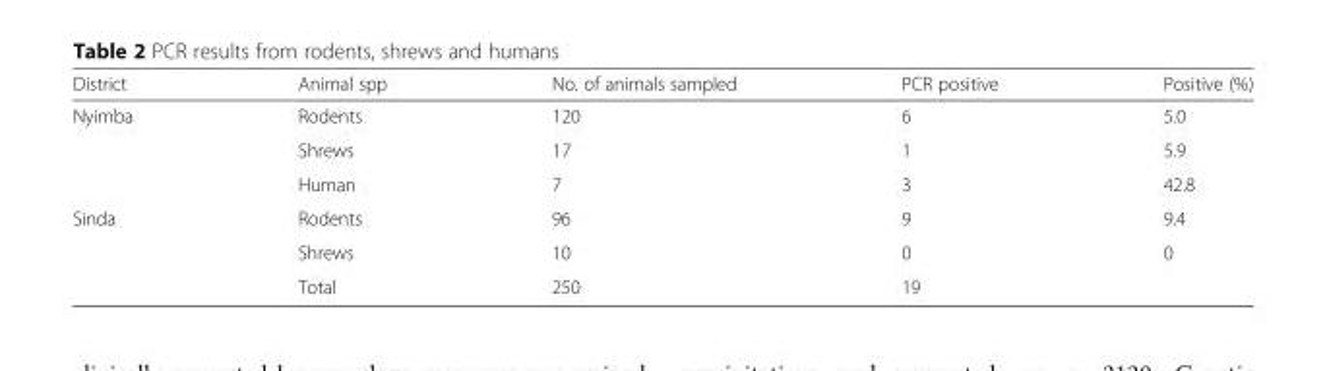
<table><thead><tr><td>District</td><td>Animal spp</td><td>No. of animals sampled</td><td>PCR positive</td><td>Positive (%)</td></tr></thead><tbody><tr><td rowspan="3">Nyimba</td><td>Rodents</td><td>120</td><td>6</td><td>5.0</td></tr><tr><td>Shrews</td><td>17</td><td>1</td><td>5.9</td></tr><tr><td>Human</td><td>7</td><td>3</td><td>42.8</td></tr><tr><td rowspan="3">Sinda</td><td>Rodents</td><td>96</td><td>9</td><td>9.4</td></tr><tr><td>Shrews</td><td>10</td><td>0</td><td>0</td></tr><tr><td>Total</td><td>250</td><td>19</td><td></td></tr></tbody></table>